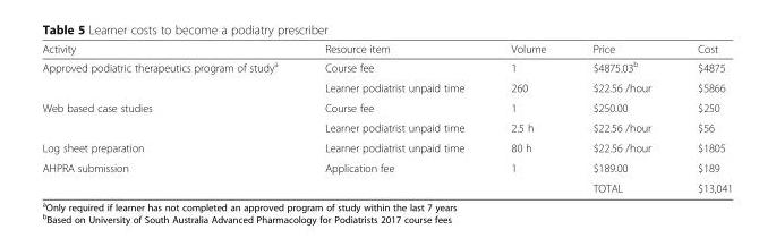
<table><thead><tr><td>Activity</td><td>Resource item</td><td>Volume</td><td>Price</td><td>Cost</td></tr></thead><tbody><tr><td rowspan="2">Approved podiatric therapeutics program of study<sup>a</sup></td><td>Course fee</td><td>1</td><td>$4875.03<sup>b</sup></td><td>$4875</td></tr><tr><td>Learner podiatrist unpaid time</td><td>260</td><td>$22.56 /hour</td><td>$5866</td></tr><tr><td rowspan="2">Web based case studies</td><td>Course fee</td><td>1</td><td>$250.00</td><td>$250</td></tr><tr><td>Learner podiatrist unpaid time</td><td>2.5 h</td><td>$22.56 /hour</td><td>$56</td></tr><tr><td>Log sheet preparation</td><td>Learner podiatrist unpaid time</td><td>80 h</td><td>$22.56 /hour</td><td>$1805</td></tr><tr><td>AHPRA submission</td><td>Application fee</td><td>1</td><td>$189.00</td><td>$189</td></tr><tr><td colspan="3"></td><td>TOTAL</td><td>$13,041</td></tr></tbody></table>